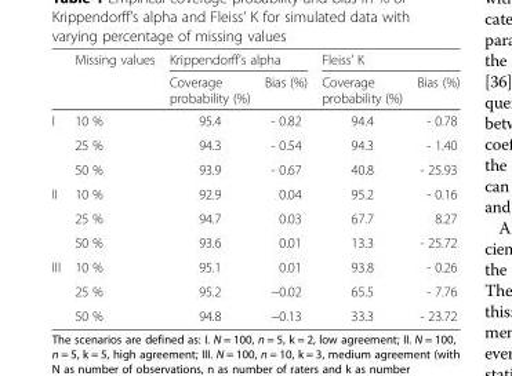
<table><thead><tr><td rowspan="2"></td><td rowspan="2">Missing values</td><td colspan="2">Krippendorff’s alpha</td><td colspan="2">Fleiss’ K</td></tr><tr><td>Coverage probability (%)</td><td>Bias (%)</td><td>Coverage probability (%)</td><td>Bias (%)</td></tr></thead><tbody><tr><td rowspan="3">I</td><td>10 %</td><td>95.4</td><td>- 0.82</td><td>94.4</td><td>- 0.78</td></tr><tr><td>25 %</td><td>94.3</td><td>- 0.54</td><td>94.3</td><td>- 1.40</td></tr><tr><td>50 %</td><td>93.9</td><td>- 0.67</td><td>40.8</td><td>- 25.93</td></tr><tr><td rowspan="3">II</td><td>10 %</td><td>92.9</td><td>0.04</td><td>95.2</td><td>- 0.16</td></tr><tr><td>25 %</td><td>94.7</td><td>0.03</td><td>67.7</td><td>8.27</td></tr><tr><td>50 %</td><td>93.6</td><td>0.01</td><td>13.3</td><td>- 25.72</td></tr><tr><td rowspan="3">III</td><td>10 %</td><td>95.1</td><td>0.01</td><td>93.8</td><td>- 0.26</td></tr><tr><td>25 %</td><td>95.2</td><td>−0.02</td><td>65.5</td><td>- 7.76</td></tr><tr><td>50 %</td><td>94.8</td><td>−0.13</td><td>33.3</td><td>- 23.72</td></tr></tbody></table>